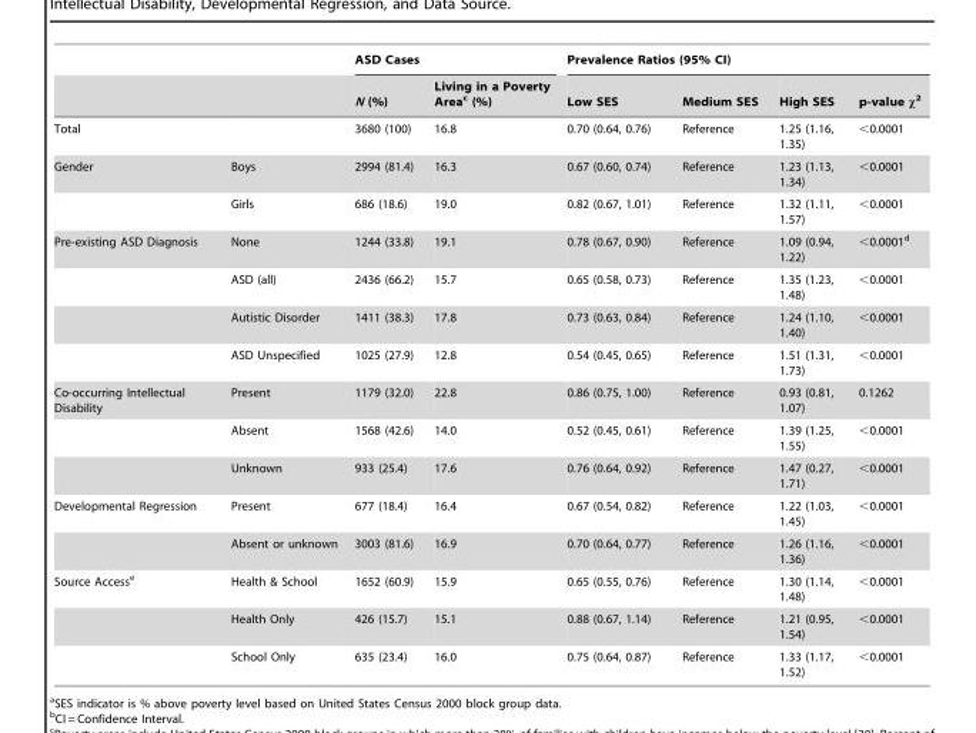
<table><thead><tr><td rowspan="2"></td><td rowspan="2"></td><td colspan="2">ASD Cases</td><td colspan="4">Prevalence Ratios (95% CI)</td></tr><tr><td>N (%)</td><td>Living in a Poverty Area<sup>c</sup> (%)</td><td>Low SES</td><td>Medium SES</td><td>High SES</td><td>p-value χ<sup>2</sup></td></tr></thead><tbody><tr><td>Total</td><td></td><td>3680 (100)</td><td>16.8</td><td>0.70 (0.64, 0.76)</td><td>Reference</td><td>1.25 (1.16, 1.35)</td><td>&lt;0.0001</td></tr><tr><td rowspan="2">Gender</td><td>Boys</td><td>2994 (81.4)</td><td>16.3</td><td>0.67 (0.60, 0.74)</td><td>Reference</td><td>1.23 (1.13, 1.34)</td><td>&lt;0.0001</td></tr><tr><td>Girls</td><td>686 (18.6)</td><td>19.0</td><td>0.82 (0.67, 1.01)</td><td>Reference</td><td>1.32 (1.11, 1.57)</td><td>&lt;0.0001</td></tr><tr><td rowspan="4">Pre-existing ASD Diagnosis</td><td>None</td><td>1244 (33.8)</td><td>19.1</td><td>0.78 (0.67, 0.90)</td><td>Reference</td><td>1.09 (0.94, 1.22)</td><td>&lt;0.0001<sup>d</sup></td></tr><tr><td>ASD (all)</td><td>2436 (66.2)</td><td>15.7</td><td>0.65 (0.58, 0.73)</td><td>Reference</td><td>1.35 (1.23, 1.48)</td><td>&lt;0.0001</td></tr><tr><td>Autistic Disorder</td><td>1411 (38.3)</td><td>17.8</td><td>0.73 (0.63, 0.84)</td><td>Reference</td><td>1.24 (1.10, 1.40)</td><td>&lt;0.0001</td></tr><tr><td>ASD Unspecified</td><td>1025 (27.9)</td><td>12.8</td><td>0.54 (0.45, 0.65)</td><td>Reference</td><td>1.51 (1.31, 1.73)</td><td>&lt;0.0001</td></tr><tr><td rowspan="3">Co-occurring Intellectual Disability</td><td>Present</td><td>1179 (32.0)</td><td>22.8</td><td>0.86 (0.75, 1.00)</td><td>Reference</td><td>0.93 (0.81, 1.07)</td><td>0.1262</td></tr><tr><td>Absent</td><td>1568 (42.6)</td><td>14.0</td><td>0.52 (0.45, 0.61)</td><td>Reference</td><td>1.39 (1.25, 1.55)</td><td>&lt;0.0001</td></tr><tr><td>Unknown</td><td>933 (25.4)</td><td>17.6</td><td>0.76 (0.64, 0.92)</td><td>Reference</td><td>1.47 (0.27, 1.71)</td><td>&lt;0.0001</td></tr><tr><td rowspan="2">Developmental Regression</td><td>Present</td><td>677 (18.4)</td><td>16.4</td><td>0.67 (0.54, 0.82)</td><td>Reference</td><td>1.22 (1.03, 1.45)</td><td>&lt;0.0001</td></tr><tr><td>Absent or unknown</td><td>3003 (81.6)</td><td>16.9</td><td>0.70 (0.64, 0.77)</td><td>Reference</td><td>1.26 (1.16, 1.36)</td><td>&lt;0.0001</td></tr><tr><td rowspan="3">Source Access<sup>e</sup></td><td>Health &amp; School</td><td>1652 (60.9)</td><td>15.9</td><td>0.65 (0.55, 0.76)</td><td>Reference</td><td>1.30 (1.14, 1.48)</td><td>&lt;0.0001</td></tr><tr><td>Health Only</td><td>426 (15.7)</td><td>15.1</td><td>0.88 (0.67, 1.14)</td><td>Reference</td><td>1.21 (0.95, 1.54)</td><td>&lt;0.0001</td></tr><tr><td>School Only</td><td>635 (23.4)</td><td>16.0</td><td>0.75 (0.64, 0.87)</td><td>Reference</td><td>1.33 (1.17, 1.52)</td><td>&lt;0.0001</td></tr></tbody></table>